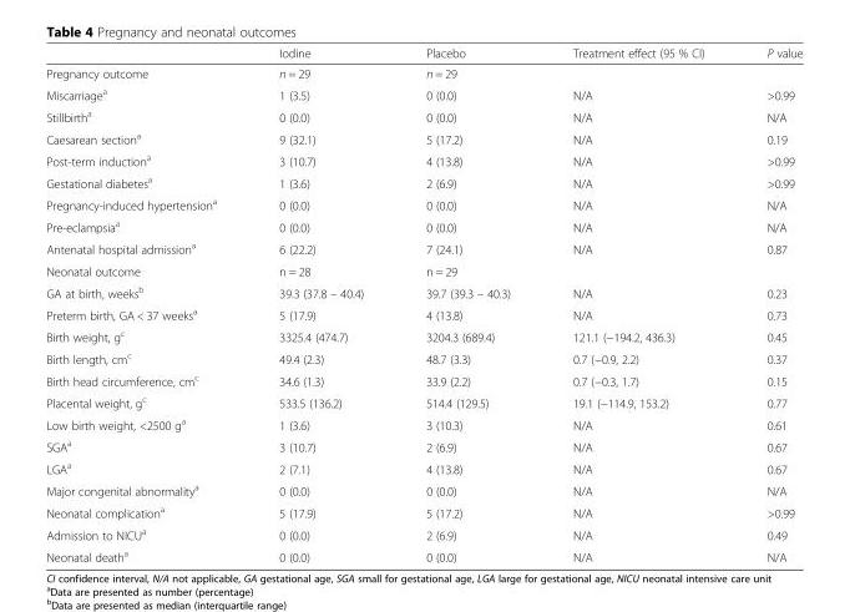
<table><thead><tr><td></td><td>Iodine</td><td>Placebo</td><td>Treatment effect (95 % CI)</td><td>P value</td></tr></thead><tbody><tr><td>Pregnancy outcome</td><td>n = 29</td><td>n = 29</td><td></td><td></td></tr><tr><td>Miscarriage<sup>a</sup></td><td>1 (3.5)</td><td>0 (0.0)</td><td>N/A</td><td>&gt;0.99</td></tr><tr><td>Stillbirth<sup>a</sup></td><td>0 (0.0)</td><td>0 (0.0)</td><td>N/A</td><td>N/A</td></tr><tr><td>Caesarean section<sup>a</sup></td><td>9 (32.1)</td><td>5 (17.2)</td><td>N/A</td><td>0.19</td></tr><tr><td>Post-term induction<sup>a</sup></td><td>3 (10.7)</td><td>4 (13.8)</td><td>N/A</td><td>&gt;0.99</td></tr><tr><td>Gestational diabetes<sup>a</sup></td><td>1 (3.6)</td><td>2 (6.9)</td><td>N/A</td><td>&gt;0.99</td></tr><tr><td>Pregnancy-induced hypertension<sup>a</sup></td><td>0 (0.0)</td><td>0 (0.0)</td><td>N/A</td><td>N/A</td></tr><tr><td>Pre-eclampsia<sup>a</sup></td><td>0 (0.0)</td><td>0 (0.0)</td><td>N/A</td><td>N/A</td></tr><tr><td>Antenatal hospital admission<sup>a</sup></td><td>6 (22.2)</td><td>7 (24.1)</td><td>N/A</td><td>0.87</td></tr><tr><td>Neonatal outcome</td><td>n = 28</td><td>n = 29</td><td></td><td></td></tr><tr><td>GA at birth, weeks<sup>b</sup></td><td>39.3 (37.8 – 40.4)</td><td>39.7 (39.3 – 40.3)</td><td>N/A</td><td>0.23</td></tr><tr><td>Preterm birth, GA &lt; 37 weeks<sup>a</sup></td><td>5 (17.9)</td><td>4 (13.8)</td><td>N/A</td><td>0.73</td></tr><tr><td>Birth weight, g<sup>c</sup></td><td>3325.4 (474.7)</td><td>3204.3 (689.4)</td><td>121.1 (−194.2, 436.3)</td><td>0.45</td></tr><tr><td>Birth length, cm<sup>c</sup></td><td>49.4 (2.3)</td><td>48.7 (3.3)</td><td>0.7 (−0.9, 2.2)</td><td>0.37</td></tr><tr><td>Birth head circumference, cm<sup>c</sup></td><td>34.6 (1.3)</td><td>33.9 (2.2)</td><td>0.7 (−0.3, 1.7)</td><td>0.15</td></tr><tr><td>Placental weight, g<sup>c</sup></td><td>533.5 (136.2)</td><td>514.4 (129.5)</td><td>19.1 (−114.9, 153.2)</td><td>0.77</td></tr><tr><td>Low birth weight, &lt;2500 g<sup>a</sup></td><td>1 (3.6)</td><td>3 (10.3)</td><td>N/A</td><td>0.61</td></tr><tr><td>SGA<sup>a</sup></td><td>3 (10.7)</td><td>2 (6.9)</td><td>N/A</td><td>0.67</td></tr><tr><td>LGA<sup>a</sup></td><td>2 (7.1)</td><td>4 (13.8)</td><td>N/A</td><td>0.67</td></tr><tr><td>Major congenital abnormality<sup>a</sup></td><td>0 (0.0)</td><td>0 (0.0)</td><td>N/A</td><td>N/A</td></tr><tr><td>Neonatal complication<sup>a</sup></td><td>5 (17.9)</td><td>5 (17.2)</td><td>N/A</td><td>&gt;0.99</td></tr><tr><td>Admission to NICU<sup>a</sup></td><td>0 (0.0)</td><td>2 (6.9)</td><td>N/A</td><td>0.49</td></tr><tr><td>Neonatal death<sup>a</sup></td><td>0 (0.0)</td><td>0 (0.0)</td><td>N/A</td><td>N/A</td></tr></tbody></table>